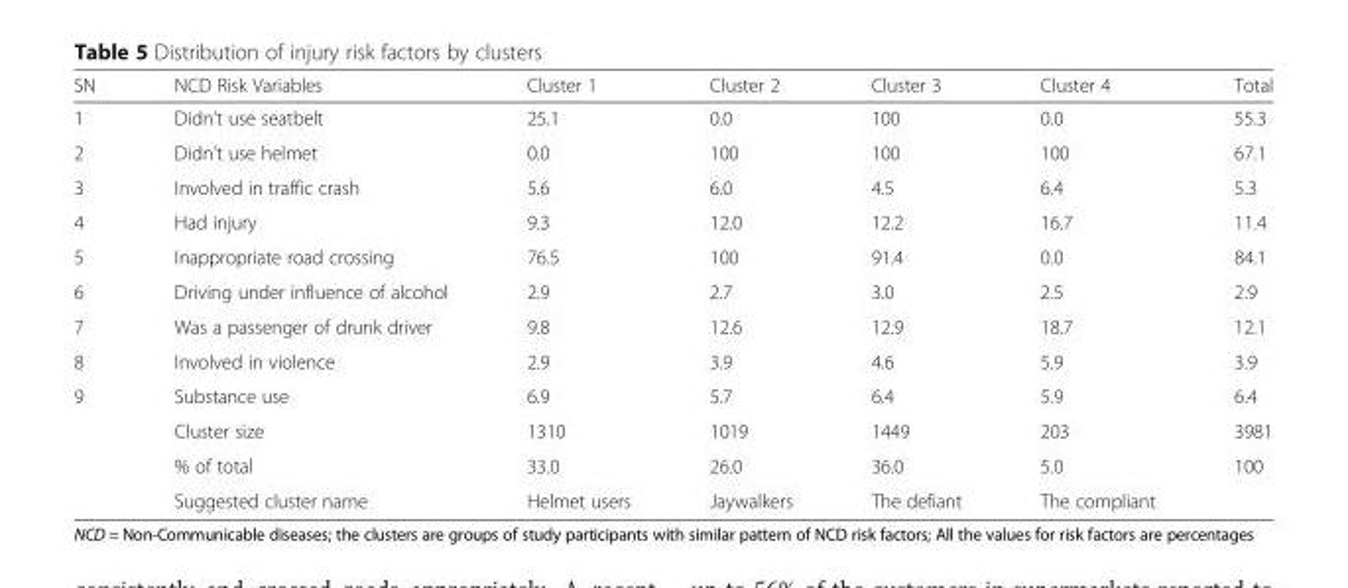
<table><thead><tr><td>SN</td><td>NCD Risk Variables</td><td>Cluster 1</td><td>Cluster 2</td><td>Cluster 3</td><td>Cluster 4</td><td>Total</td></tr></thead><tbody><tr><td>1</td><td>Didn’t use seatbelt</td><td>25.1</td><td>0.0</td><td>100</td><td>0.0</td><td>55.3</td></tr><tr><td>2</td><td>Didn’t use helmet</td><td>0.0</td><td>100</td><td>100</td><td>100</td><td>67.1</td></tr><tr><td>3</td><td>Involved in traffic crash</td><td>5.6</td><td>6.0</td><td>4.5</td><td>6.4</td><td>5.3</td></tr><tr><td>4</td><td>Had injury</td><td>9.3</td><td>12.0</td><td>12.2</td><td>16.7</td><td>11.4</td></tr><tr><td>5</td><td>Inappropriate road crossing</td><td>76.5</td><td>100</td><td>91.4</td><td>0.0</td><td>84.1</td></tr><tr><td>6</td><td>Driving under influence of alcohol</td><td>2.9</td><td>2.7</td><td>3.0</td><td>2.5</td><td>2.9</td></tr><tr><td>7</td><td>Was a passenger of drunk driver</td><td>9.8</td><td>12.6</td><td>12.9</td><td>18.7</td><td>12.1</td></tr><tr><td>8</td><td>Involved in violence</td><td>2.9</td><td>3.9</td><td>4.6</td><td>5.9</td><td>3.9</td></tr><tr><td rowspan="4">9</td><td>Substance use</td><td>6.9</td><td>5.7</td><td>6.4</td><td>5.9</td><td>6.4</td></tr><tr><td>Cluster size</td><td>1310</td><td>1019</td><td>1449</td><td>203</td><td>3981</td></tr><tr><td>% of total</td><td>33.0</td><td>26.0</td><td>36.0</td><td>5.0</td><td>100</td></tr><tr><td>Suggested cluster name</td><td>Helmet users</td><td>Jaywalkers</td><td>The defiant</td><td>The compliant</td><td></td></tr></tbody></table>